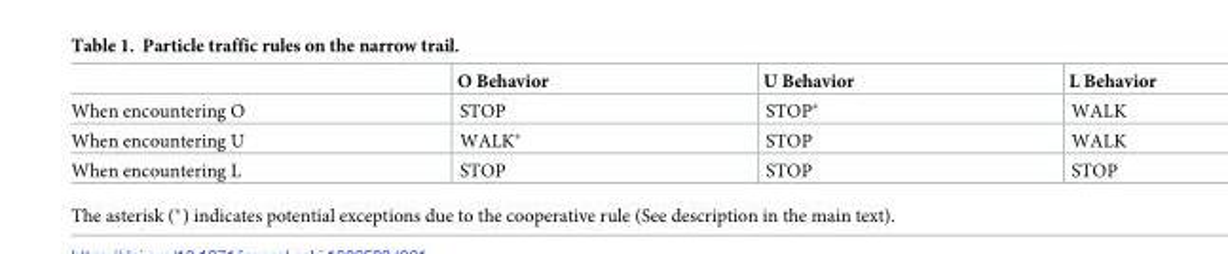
<table><thead><tr><td></td><td>O Behavior</td><td>U Behavior</td><td>L Behavior</td></tr></thead><tbody><tr><td>When encountering O</td><td>STOP</td><td>STOP*</td><td>WALK</td></tr><tr><td>When encountering U</td><td>WALK*</td><td>STOP</td><td>WALK</td></tr><tr><td>When encountering L</td><td>STOP</td><td>STOP</td><td>STOP</td></tr></tbody></table>